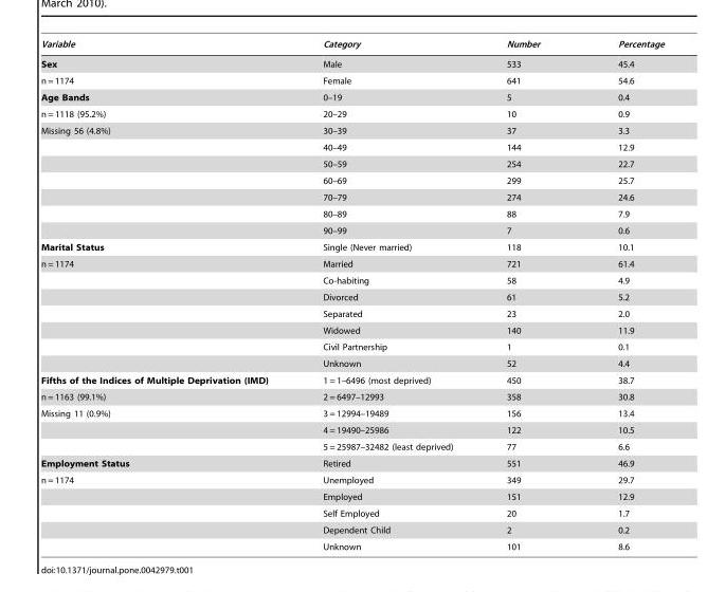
<table><thead><tr><td>Variable</td><td>Category</td><td>Number</td><td>Percentage</td></tr></thead><tbody><tr><td>Sex</td><td>Male</td><td>533</td><td>45.4</td></tr><tr><td>n = 1174</td><td>Female</td><td>641</td><td>54.6</td></tr><tr><td>Age Bands</td><td>0–19</td><td>5</td><td>0.4</td></tr><tr><td>n = 1118 (95.2%)</td><td>20–29</td><td>10</td><td>0.9</td></tr><tr><td rowspan="7">Missing 56 (4.8%)</td><td>30–39</td><td>37</td><td>3.3</td></tr><tr><td>40–49</td><td>144</td><td>12.9</td></tr><tr><td>50–59</td><td>254</td><td>22.7</td></tr><tr><td>60–69</td><td>299</td><td>25.7</td></tr><tr><td>70–79</td><td>274</td><td>24.6</td></tr><tr><td>80–89</td><td>88</td><td>7.9</td></tr><tr><td>90–99</td><td>7</td><td>0.6</td></tr><tr><td>Marital Status</td><td>Single (Never married)</td><td>118</td><td>10.1</td></tr><tr><td rowspan="7">n = 1174</td><td>Married</td><td>721</td><td>61.4</td></tr><tr><td>Co-habiting</td><td>58</td><td>4.9</td></tr><tr><td>Divorced</td><td>61</td><td>5.2</td></tr><tr><td>Separated</td><td>23</td><td>2.0</td></tr><tr><td>Widowed</td><td>140</td><td>11.9</td></tr><tr><td>Civil Partnership</td><td>1</td><td>0.1</td></tr><tr><td>Unknown</td><td>52</td><td>4.4</td></tr><tr><td>Fifths of the Indices of Multiple Deprivation (IMD)</td><td>1 = 1–6496 (most deprived)</td><td>450</td><td>38.7</td></tr><tr><td>n = 1163 (99.1%)</td><td>2 = 6497–12993</td><td>358</td><td>30.8</td></tr><tr><td rowspan="3">Missing 11 (0.9%)</td><td>3 = 12994–19489</td><td>156</td><td>13.4</td></tr><tr><td>4 = 19490–25986</td><td>122</td><td>10.5</td></tr><tr><td>5 = 25987–32482 (least deprived)</td><td>77</td><td>6.6</td></tr><tr><td>Employment Status</td><td>Retired</td><td>551</td><td>46.9</td></tr><tr><td rowspan="5">n = 1174</td><td>Unemployed</td><td>349</td><td>29.7</td></tr><tr><td>Employed</td><td>151</td><td>12.9</td></tr><tr><td>Self Employed</td><td>20</td><td>1.7</td></tr><tr><td>Dependent Child</td><td>2</td><td>0.2</td></tr><tr><td>Unknown</td><td>101</td><td>8.6</td></tr></tbody></table>